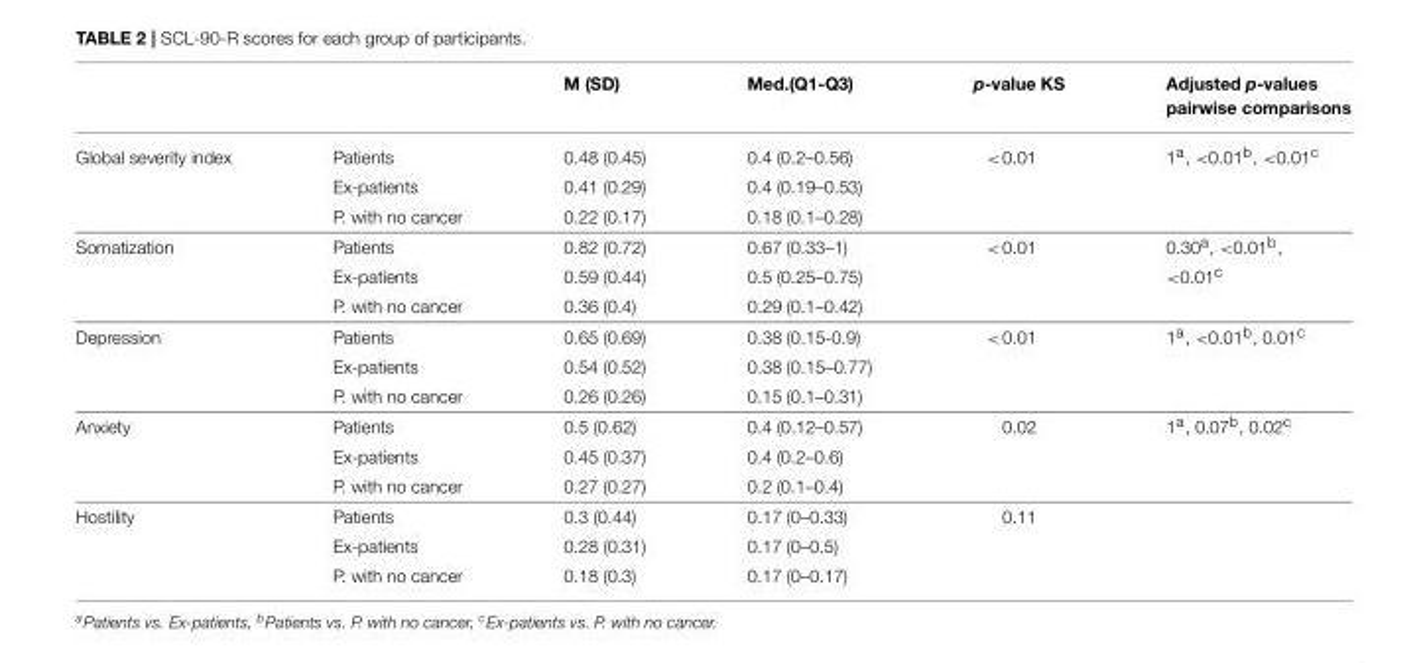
<table><thead><tr><td></td><td></td><td>M (SD)</td><td>Med.(Q1-Q3)</td><td>p-value KS</td><td>Adjusted p-values pairwise comparisons</td></tr></thead><tbody><tr><td rowspan="3">Global severity index</td><td>Patients</td><td>0.48 (0.45)</td><td>0.4 (0.2–0.56)</td><td>&lt;0.01</td><td>1<sup>a</sup>, &lt;0.01<sup>b</sup>, &lt;0.01<sup>c</sup></td></tr><tr><td>Ex-patients</td><td>0.41 (0.29)</td><td>0.4 (0.19–0.53)</td><td></td><td></td></tr><tr><td>P. with no cancer</td><td>0.22 (0.17)</td><td>0.18 (0.1–0.28)</td><td></td><td></td></tr><tr><td rowspan="3">Somatization</td><td>Patients</td><td>0.82 (0.72)</td><td>0.67 (0.33–1)</td><td>&lt;0.01</td><td>0.30a, &lt;0.01b,</td></tr><tr><td>Ex-patients</td><td>0.59 (0.44)</td><td>0.5 (0.25–0.75)</td><td></td><td>&lt;0.01<sup>c</sup></td></tr><tr><td>P. with no cancer</td><td>0.36 (0.4)</td><td>0.29 (0.1–0.42)</td><td></td><td></td></tr><tr><td rowspan="3">Depression</td><td>Patients</td><td>0.65 (0.69)</td><td>0.38 (0.15-0.9)</td><td>&lt;0.01</td><td>1<sup>a</sup>, &lt;0.01<sup>b</sup>, 0.01<sup>c</sup></td></tr><tr><td>Ex-patients</td><td>0.54 (0.52)</td><td>0.38 (0.15–0.77)</td><td></td><td></td></tr><tr><td>P. with no cancer</td><td>0.26 (0.26)</td><td>0.15 (0.1–0.31)</td><td></td><td></td></tr><tr><td rowspan="3">Anxiety</td><td>Patients</td><td>0.5 (0.62)</td><td>0.4 (0.12–0.57)</td><td>0.02</td><td>1<sup>a</sup>, 0.07<sup>b</sup>, 0.02<sup>c</sup></td></tr><tr><td>Ex-patients</td><td>0.45 (0.37)</td><td>0.4 (0.2–0.6)</td><td></td><td></td></tr><tr><td>P. with no cancer</td><td>0.27 (0.27)</td><td>0.2 (0.1–0.4)</td><td></td><td></td></tr><tr><td rowspan="3">Hostility</td><td>Patients</td><td>0.3 (0.44)</td><td>0.17 (0–0.33)</td><td>0.11</td><td></td></tr><tr><td>Ex-patients</td><td>0.28 (0.31)</td><td>0.17 (0–0.5)</td><td></td><td></td></tr><tr><td>P. with no cancer</td><td>0.18 (0.3)</td><td>0.17 (0–0.17)</td><td></td><td></td></tr></tbody></table>